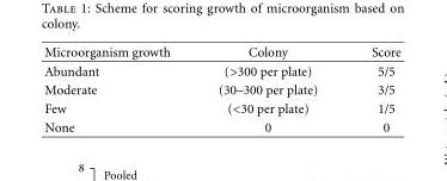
<table><thead><tr><td>Microorganism growth</td><td>Colony</td><td>Score</td></tr></thead><tbody><tr><td>Abundant</td><td>(&gt;300 per plate)</td><td>5/5</td></tr><tr><td>Moderate</td><td>(30–300 per plate)</td><td>3/5</td></tr><tr><td>Few</td><td>(&lt;30 per plate)</td><td>1/5</td></tr><tr><td>None</td><td>0</td><td>0</td></tr></tbody></table>